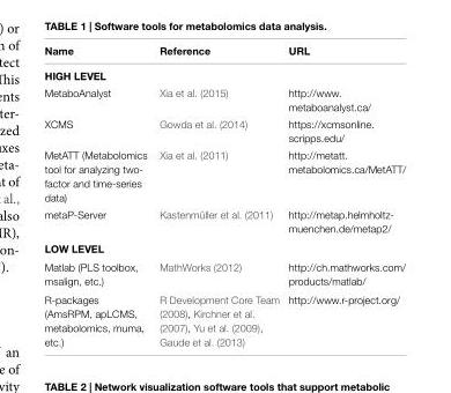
<table><thead><tr><td>Name</td><td>Reference</td><td>URL</td></tr></thead><tbody><tr><td colspan="3">HiGH LeveL</td></tr><tr><td>MetaboAnalyst</td><td>Xia et al. (2015)</td><td>http://www. metaboanalyst.ca/</td></tr><tr><td>XCMS</td><td>Gowda et al. (2014)</td><td>https://xcmsonline. scripps.edu/</td></tr><tr><td>MetATT (Metabolomics tool for analyzing two- factor and time-series data)</td><td>Xia et al. (2011)</td><td>http://metatt. metabolomics.ca/MetATT/</td></tr><tr><td>metaP-Server</td><td>Kastenmüller et al. (2011)</td><td>http://metap.helmholtz- muenchen.de/metap2/</td></tr><tr><td colspan="3">LOw LeveL</td></tr><tr><td>Matlab (PLS toolbox, msalign, etc.)</td><td>MathWorks (2012)</td><td>http://ch.mathworks.com/ products/matlab/</td></tr><tr><td>R-packages (AmsRPM, apLCMS, metabolomics, muma, etc.)</td><td>R Development Core Team (2008), Kirchner et al. (2007), Yu et al. (2009), Gaude et al. (2013)</td><td>http://www.r-project.org/</td></tr></tbody></table>